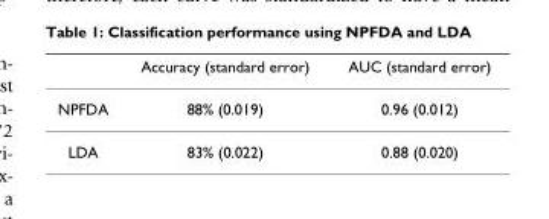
<table><thead><tr><td></td><td>Accuracy (standard error)</td><td>AUC (standard error)</td></tr></thead><tbody><tr><td>NPFDA</td><td>88% (0.019)</td><td>0.96 (0.012)</td></tr><tr><td>LDA</td><td>83% (0.022)</td><td>0.88 (0.020)</td></tr></tbody></table>